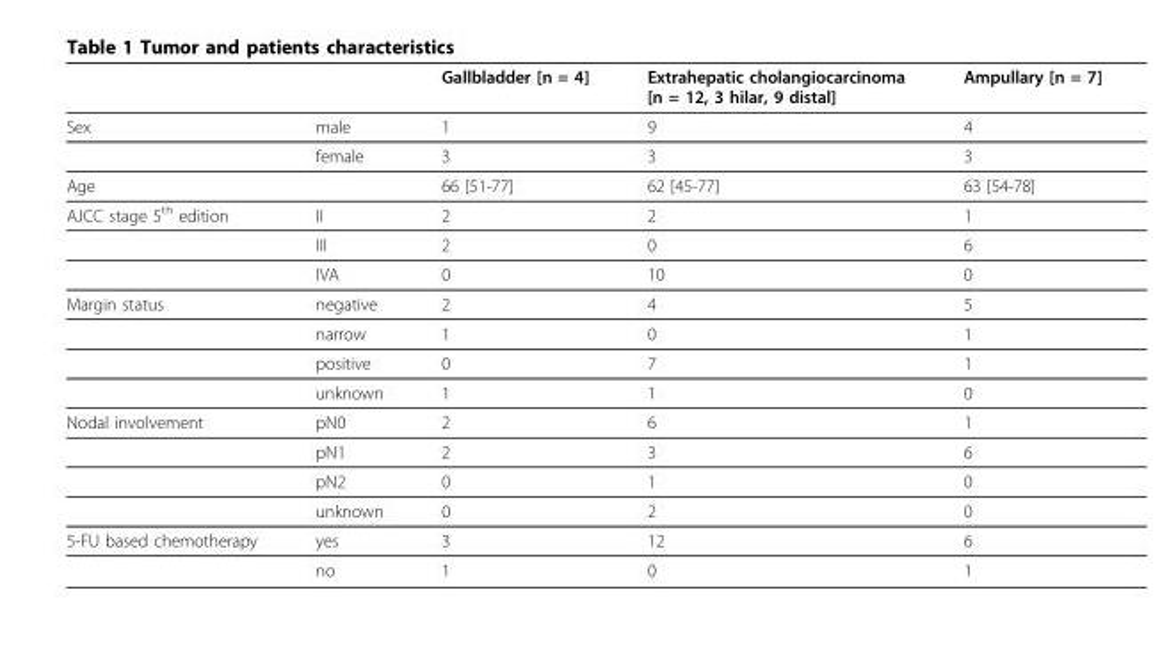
<table><thead><tr><td></td><td></td><td>Gallbladder [n = 4]</td><td>Extrahepatic cholangiocarcinoma [n = 12, 3 hilar, 9 distal]</td><td>Ampullary [n = 7]</td></tr></thead><tbody><tr><td rowspan="2">Sex</td><td>male</td><td>1</td><td>9</td><td>4</td></tr><tr><td>female</td><td>3</td><td>3</td><td>3</td></tr><tr><td>Age</td><td></td><td>66 [51-77]</td><td>62 [45-77]</td><td>63 [54-78]</td></tr><tr><td rowspan="3">AJCC stage 5<sup>th</sup> edition</td><td>II</td><td>2</td><td>2</td><td>1</td></tr><tr><td>III</td><td>2</td><td>0</td><td>6</td></tr><tr><td>IVA</td><td>0</td><td>10</td><td>0</td></tr><tr><td rowspan="4">Margin status</td><td>negative</td><td>2</td><td>4</td><td>5</td></tr><tr><td>narrow</td><td>1</td><td>0</td><td>1</td></tr><tr><td>positive</td><td>0</td><td>7</td><td>1</td></tr><tr><td>unknown</td><td>1</td><td>1</td><td>0</td></tr><tr><td rowspan="4">Nodal involvement</td><td>pN0</td><td>2</td><td>6</td><td>1</td></tr><tr><td>pN1</td><td>2</td><td>3</td><td>6</td></tr><tr><td>pN2</td><td>0</td><td>1</td><td>0</td></tr><tr><td>unknown</td><td>0</td><td>2</td><td>0</td></tr><tr><td rowspan="2">5-FU based chemotherapy</td><td>yes</td><td>3</td><td>12</td><td>6</td></tr><tr><td>no</td><td>1</td><td>0</td><td>1</td></tr></tbody></table>